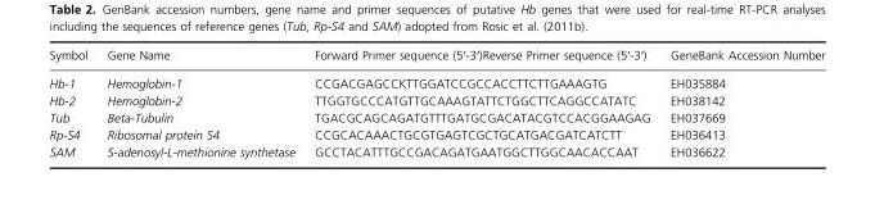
<table><thead><tr><td>Symbol</td><td>Gene Name</td><td>Forward Primer sequence (5′-3′)Reverse Primer sequence (5′-3′)</td><td>GeneBank Accession Number</td></tr></thead><tbody><tr><td>Hb-1</td><td>Hemoglobin-1</td><td>CCGACGAGCCKTTGGATCCGCCACCTTCTTGAAAGTG</td><td>EH035884</td></tr><tr><td>Hb-2</td><td>Hemoglobin-2</td><td>TTGGTGCCCATGTTGCAAAGTATTCTGGCTTCAGGCCATATC</td><td>EH038142</td></tr><tr><td>Tub</td><td>Beta-Tubulin</td><td>TGACGCAGCAGATGTTTGATGCGACATACGTCCACGGAAGAG</td><td>EH037669</td></tr><tr><td>Rp-S4</td><td>Ribosomal protein S4</td><td>CCGCACAAACTGCGTGAGTCGCTGCATGACGATCATCTT</td><td>EH036413</td></tr><tr><td>SAM</td><td>S-adenosyl-L-methionine synthetase</td><td>GCCTACATTTGCCGACAGATGAATGGCTTGGCAACACCAAT</td><td>EH036622</td></tr></tbody></table>